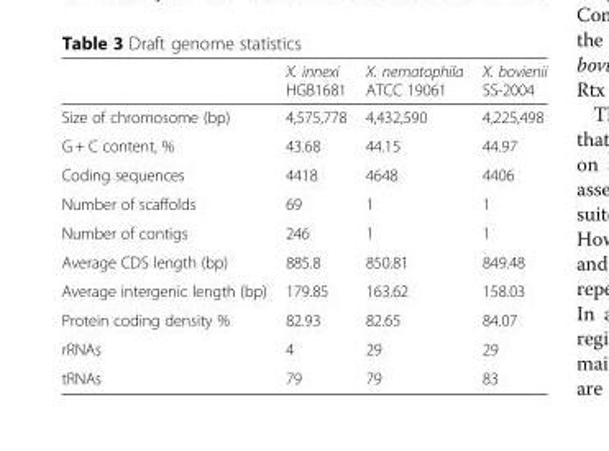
<table><thead><tr><td></td><td>X. innexi HGB1681</td><td>X. nematophila ATCC 19061</td><td>X. bovienii SS-2004</td></tr></thead><tbody><tr><td>Size of chromosome (bp)</td><td>4,575,778</td><td>4,432,590</td><td>4,225,498</td></tr><tr><td>G + C content, %</td><td>43.68</td><td>44.15</td><td>44.97</td></tr><tr><td>Coding sequences</td><td>4418</td><td>4648</td><td>4406</td></tr><tr><td>Number of scaffolds</td><td>69</td><td>1</td><td>1</td></tr><tr><td>Number of contigs</td><td>246</td><td>1</td><td>1</td></tr><tr><td>Average CDS length (bp)</td><td>885.8</td><td>850.81</td><td>849.48</td></tr><tr><td>Average intergenic length (bp)</td><td>179.85</td><td>163.62</td><td>158.03</td></tr><tr><td>Protein coding density %</td><td>82.93</td><td>82.65</td><td>84.07</td></tr><tr><td>rRNAs</td><td>4</td><td>29</td><td>29</td></tr><tr><td>tRNAs</td><td>79</td><td>79</td><td>83</td></tr></tbody></table>